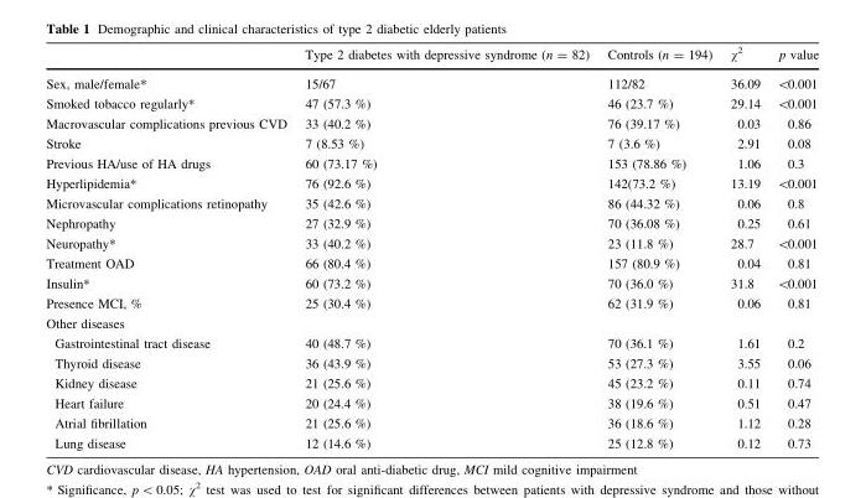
<table><thead><tr><td></td><td>Type 2 diabetes with depressive syndrome (n = 82)</td><td>Controls (n = 194)</td><td>χ<sup>2</sup></td><td>p value</td></tr></thead><tbody><tr><td>Sex, male/female*</td><td>15/67</td><td>112/82</td><td>36.09</td><td>&lt;0.001</td></tr><tr><td>Smoked tobacco regularly*</td><td>47 (57.3 %)</td><td>46 (23.7 %)</td><td>29.14</td><td>&lt;0.001</td></tr><tr><td>Macrovascular complications previous CVD</td><td>33 (40.2 %)</td><td>76 (39.17 %)</td><td>0.03</td><td>0.86</td></tr><tr><td>Stroke</td><td>7 (8.53 %)</td><td>7 (3.6 %)</td><td>2.91</td><td>0.08</td></tr><tr><td>Previous HA/use of HA drugs</td><td>60 (73.17 %)</td><td>153 (78.86 %)</td><td>1.06</td><td>0.3</td></tr><tr><td>Hyperlipidemia*</td><td>76 (92.6 %)</td><td>142(73.2 %)</td><td>13.19</td><td>&lt;0.001</td></tr><tr><td>Microvascular complications retinopathy</td><td>35 (42.6 %)</td><td>86 (44.32 %)</td><td>0.06</td><td>0.8</td></tr><tr><td>Nephropathy</td><td>27 (32.9 %)</td><td>70 (36.08 %)</td><td>0.25</td><td>0.61</td></tr><tr><td>Neuropathy*</td><td>33 (40.2 %)</td><td>23 (11.8 %)</td><td>28.7</td><td>&lt;0.001</td></tr><tr><td>Treatment OAD</td><td>66 (80.4 %)</td><td>157 (80.9 %)</td><td>0.04</td><td>0.81</td></tr><tr><td>Insulin*</td><td>60 (73.2 %)</td><td>70 (36.0 %)</td><td>31.8</td><td>&lt;0.001</td></tr><tr><td>Presence MCI, %</td><td>25 (30.4 %)</td><td>62 (31.9 %)</td><td>0.06</td><td>0.81</td></tr><tr><td colspan="5">Other diseases</td></tr><tr><td>Gastrointestinal tract disease</td><td>40 (48.7 %)</td><td>70 (36.1 %)</td><td>1.61</td><td>0.2</td></tr><tr><td>Thyroid disease</td><td>36 (43.9 %)</td><td>53 (27.3 %)</td><td>3.55</td><td>0.06</td></tr><tr><td>Kidney disease</td><td>21 (25.6 %)</td><td>45 (23.2 %)</td><td>0.11</td><td>0.74</td></tr><tr><td>Heart failure</td><td>20 (24.4 %)</td><td>38 (19.6 %)</td><td>0.51</td><td>0.47</td></tr><tr><td>Atrial fibrillation</td><td>21 (25.6 %)</td><td>36 (18.6 %)</td><td>1.12</td><td>0.28</td></tr><tr><td>Lung disease</td><td>12 (14.6 %)</td><td>25 (12.8 %)</td><td>0.12</td><td>0.73</td></tr></tbody></table>